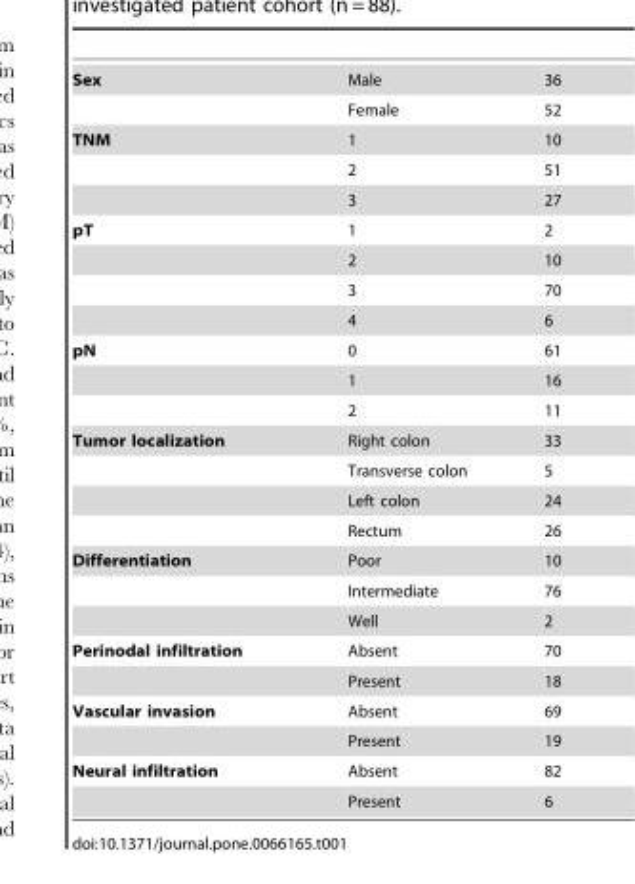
<table><tbody><tr><td rowspan="2">Sex</td><td>Male</td><td>36</td></tr><tr><td>Female</td><td>52</td></tr><tr><td rowspan="3">TNM</td><td>1</td><td>10</td></tr><tr><td>2</td><td>51</td></tr><tr><td>3</td><td>27</td></tr><tr><td rowspan="4">pT</td><td>1</td><td>2</td></tr><tr><td>2</td><td>10</td></tr><tr><td>3</td><td>70</td></tr><tr><td>4</td><td>6</td></tr><tr><td rowspan="3">pN</td><td>0</td><td>61</td></tr><tr><td>1</td><td>16</td></tr><tr><td>2</td><td>11</td></tr><tr><td rowspan="4">Tumor localization</td><td>Right colon</td><td>33</td></tr><tr><td>Transverse colon</td><td>5</td></tr><tr><td>Left colon</td><td>24</td></tr><tr><td>Rectum</td><td>26</td></tr><tr><td rowspan="3">Differentiation</td><td>Poor</td><td>10</td></tr><tr><td>Intermediate</td><td>76</td></tr><tr><td>Well</td><td>2</td></tr><tr><td rowspan="2">Perinodal infiltration</td><td>Absent</td><td>70</td></tr><tr><td>Present</td><td>18</td></tr><tr><td rowspan="2">Vascular invasion</td><td>Absent</td><td>69</td></tr><tr><td>Present</td><td>19</td></tr><tr><td rowspan="2">Neural infiltration</td><td>Absent</td><td>82</td></tr><tr><td>Present</td><td>6</td></tr></tbody></table>